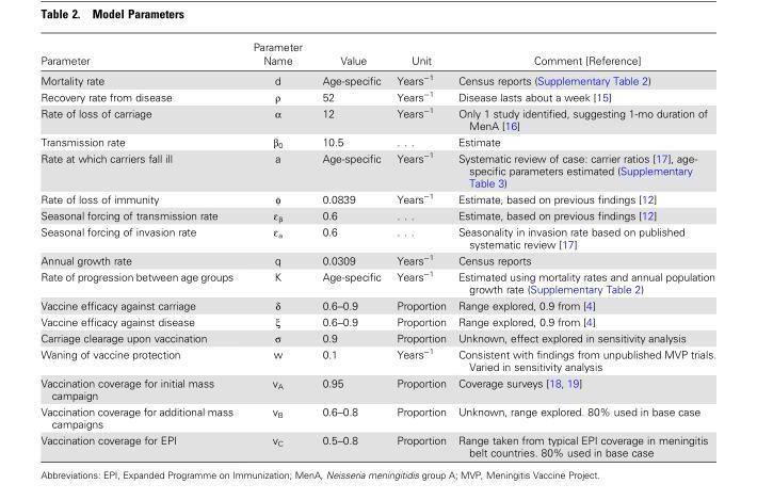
<table><thead><tr><td>Parameter</td><td>Parameter Name</td><td>Value</td><td>Unit</td><td>Comment [Reference]</td></tr></thead><tbody><tr><td>Mortality rate</td><td>d</td><td>Age-specific</td><td>Years<sup>−1</sup></td><td>Census reports (Supplementary Table 2)</td></tr><tr><td>Recovery rate from disease</td><td>ρ</td><td>52</td><td>Years<sup>−1</sup></td><td>Disease lasts about a week [15]</td></tr><tr><td>Rate of loss of carriage</td><td>α</td><td>12</td><td>Years<sup>−1</sup></td><td>Only 1 study identified, suggesting 1-mo duration of MenA [16]</td></tr><tr><td>Transmission rate</td><td>β<sub>0</sub></td><td>10.5</td><td>. . .</td><td>Estimate</td></tr><tr><td>Rate at which carriers fall ill</td><td>a</td><td>Age-specific</td><td>Years<sup>−1</sup></td><td>Systematic review of case: carrier ratios [17], age- specific parameters estimated (Supplementary Table 3)</td></tr><tr><td>Rate of loss of immunity</td><td>ϕ</td><td>0.0839</td><td>Years<sup>−1</sup></td><td>Estimate, based on previous findings [12]</td></tr><tr><td>Seasonal forcing of transmission rate</td><td>ɛβ</td><td>0.6</td><td>. . .</td><td>Estimate, based on previous findings [12]</td></tr><tr><td>Seasonal forcing of invasion rate</td><td>ɛa</td><td>0.6</td><td>. . .</td><td>Seasonality in invasion rate based on published systematic review [17]</td></tr><tr><td>Annual growth rate</td><td>q</td><td>0.0309</td><td>Years<sup>−1</sup></td><td>Census reports</td></tr><tr><td>Rate of progression between age groups</td><td>K</td><td>Age-specific</td><td>Years<sup>−1</sup></td><td>Estimated using mortality rates and annual population growth rate (Supplementary Table 2)</td></tr><tr><td>Vaccine efficacy against carriage</td><td>δ</td><td>0.6–0.9</td><td>Proportion</td><td>Range explored, 0.9 from [4]</td></tr><tr><td>Vaccine efficacy against disease</td><td>ξ</td><td>0.6–0.9</td><td>Proportion</td><td>Range explored, 0.9 from [4]</td></tr><tr><td>Carriage clearage upon vaccination</td><td>σ</td><td>0.9</td><td>Proportion</td><td>Unknown, effect explored in sensitivity analysis</td></tr><tr><td>Waning of vaccine protection</td><td>w</td><td>0.1</td><td>Years<sup>−1</sup></td><td>Consistent with findings from unpublished MVP trials. Varied in sensitivity analysis</td></tr><tr><td>Vaccination coverage for initial mass campaign</td><td>v<sub>A</sub></td><td>0.95</td><td>Proportion</td><td>Coverage surveys [18, 19]</td></tr><tr><td>Vaccination coverage for additional mass campaigns</td><td>v<sub>B</sub></td><td>0.6–0.8</td><td>Proportion</td><td>Unknown, range explored. 80% used in base case</td></tr><tr><td>Vaccination coverage for EPI</td><td>v<sub>C</sub></td><td>0.5–0.8</td><td>Proportion</td><td>Range taken from typical EPI coverage in meningitis belt countries. 80% used in base case</td></tr></tbody></table>